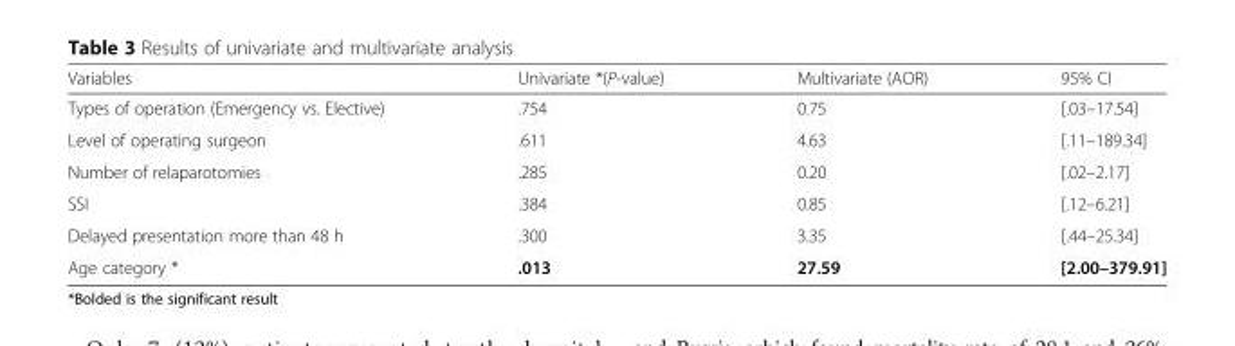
<table><thead><tr><td>Variables</td><td>Univariate *(P-value)</td><td>Multivariate (AOR)</td><td>95% CI</td></tr></thead><tbody><tr><td>Types of operation (Emergency vs. Elective)</td><td>.754</td><td>0.75</td><td>[.03–17.54]</td></tr><tr><td>Level of operating surgeon</td><td>.611</td><td>4.63</td><td>[.11–189.34]</td></tr><tr><td>Number of relaparotomies</td><td>.285</td><td>0.20</td><td>[.02–2.17]</td></tr><tr><td>SSI</td><td>.384</td><td>0.85</td><td>[.12–6.21]</td></tr><tr><td>Delayed presentation more than 48 h</td><td>.300</td><td>3.35</td><td>[.44–25.34]</td></tr><tr><td>Age category *</td><td>.013</td><td>27.59</td><td>[2.00–379.91]</td></tr></tbody></table>